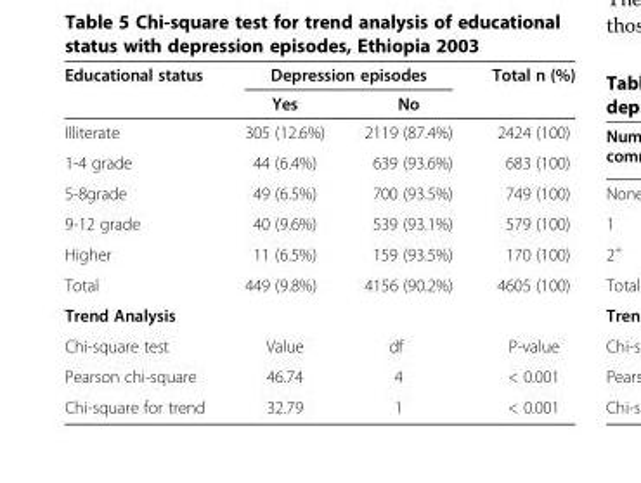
<table><thead><tr><td rowspan="2">Educational status</td><td colspan="2">Depression episodes</td><td rowspan="2">Total n (%)</td></tr><tr><td>Yes</td><td>No</td></tr></thead><tbody><tr><td>Illiterate</td><td>305 (12.6%)</td><td>2119 (87.4%)</td><td>2424 (100)</td></tr><tr><td>1-4 grade</td><td>44 (6.4%)</td><td>639 (93.6%)</td><td>683 (100)</td></tr><tr><td>5-8grade</td><td>49 (6.5%)</td><td>700 (93.5%)</td><td>749 (100)</td></tr><tr><td>9-12 grade</td><td>40 (9.6%)</td><td>539 (93.1%)</td><td>579 (100)</td></tr><tr><td>Higher</td><td>11 (6.5%)</td><td>159 (93.5%)</td><td>170 (100)</td></tr><tr><td>Total</td><td>449 (9.8%)</td><td>4156 (90.2%)</td><td>4605 (100)</td></tr><tr><td colspan="4">Trend Analysis</td></tr><tr><td>Chi-square test</td><td>Value</td><td>df</td><td>P-value</td></tr><tr><td>Pearson chi-square</td><td>46.74</td><td>4</td><td>&lt; 0.001</td></tr><tr><td>Chi-square for trend</td><td>32.79</td><td>1</td><td>&lt; 0.001</td></tr></tbody></table>